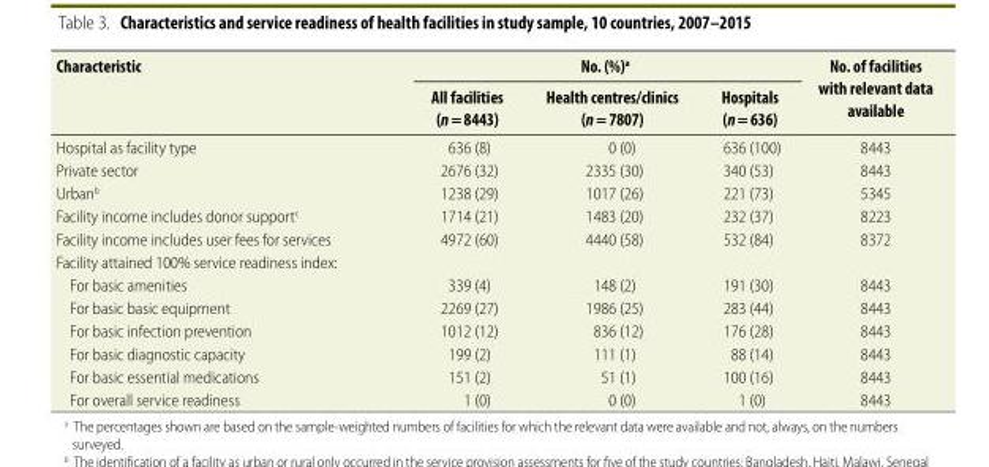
<table><thead><tr><td rowspan="2">Characteristic</td><td colspan="3">No. (%)<sup>a</sup></td><td rowspan="2">No. of facilities with relevant data available</td></tr><tr><td>All facilities (n = 8443)</td><td>Health centres/clinics (n = 7807)</td><td>Hospitals (n = 636)</td></tr></thead><tbody><tr><td>Hospital as facility type</td><td>636 (8)</td><td>0 (0)</td><td>636 (100)</td><td>8443</td></tr><tr><td>Private sector</td><td>2676 (32)</td><td>2335 (30)</td><td>340 (53)</td><td>8443</td></tr><tr><td>Urban<sup>b</sup></td><td>1238 (29)</td><td>1017 (26)</td><td>221 (73)</td><td>5345</td></tr><tr><td>Facility income includes donor support<sup>c</sup></td><td>1714 (21)</td><td>1483 (20)</td><td>232 (37)</td><td>8223</td></tr><tr><td>Facility income includes user fees for services</td><td>4972 (60)</td><td>4440 (58)</td><td>532 (84)</td><td>8372</td></tr><tr><td colspan="5">Facility attained 100% service readiness index:</td></tr><tr><td>For basic amenities</td><td>339 (4)</td><td>148 (2)</td><td>191 (30)</td><td>8443</td></tr><tr><td>For basic basic equipment</td><td>2269 (27)</td><td>1986 (25)</td><td>283 (44)</td><td>8443</td></tr><tr><td>For basic infection prevention</td><td>1012 (12)</td><td>836 (12)</td><td>176 (28)</td><td>8443</td></tr><tr><td>For basic diagnostic capacity</td><td>199 (2)</td><td>111 (1)</td><td>88 (14)</td><td>8443</td></tr><tr><td>For basic essential medications</td><td>151 (2)</td><td>51 (1)</td><td>100 (16)</td><td>8443</td></tr><tr><td>For overall service readiness</td><td>1 (0)</td><td>0 (0)</td><td>1 (0)</td><td>8443</td></tr></tbody></table>